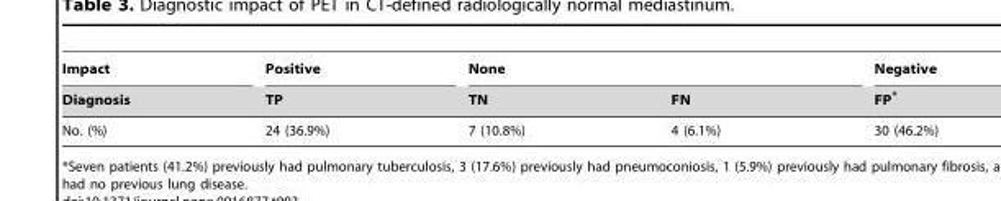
<table><thead><tr><td rowspan="2">Impact Diagnosis</td><td rowspan="2">Positive TP</td><td colspan="2">None</td><td rowspan="2">Negative FP*</td></tr><tr><td>TN</td><td>FN</td></tr></thead><tbody><tr><td>No. (%)</td><td>24 (36.9%)</td><td>7 (10.8%)</td><td>4 (6.1%)</td><td>30 (46.2%)</td></tr></tbody></table>